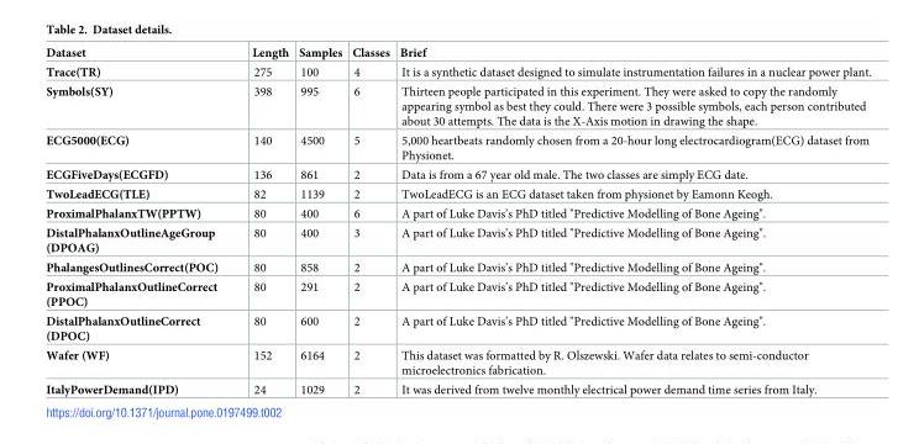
<table><thead><tr><td>Dataset</td><td>Length</td><td>Samples</td><td>Classes</td><td>Brief</td></tr></thead><tbody><tr><td>Trace(TR)</td><td>275</td><td>100</td><td>4</td><td>It is a synthetic dataset designed to simulate instrumentation failures in a nuclear power plant.</td></tr><tr><td>Symbols(SY)</td><td>398</td><td>995</td><td>6</td><td>Thirteen people participated in this experiment. They were asked to copy the randomly appearing symbol as best they could. There were 3 possible symbols, each person contributed about 30 attempts. The data is the X-Axis motion in drawing the shape.</td></tr><tr><td>ECG5000(ECG)</td><td>140</td><td>4500</td><td>5</td><td>5,000 heartbeats randomly chosen from a 20-hour long electrocardiogram(ECG) dataset from Physionet.</td></tr><tr><td>ECGFiveDays(ECGFD)</td><td>136</td><td>861</td><td>2</td><td>Data is from a 67 year old male. The two classes are simply ECG date.</td></tr><tr><td>TwoLeadECG(TLE)</td><td>82</td><td>1139</td><td>2</td><td>TwoLeadECG is an ECG dataset taken from physionet by Eamonn Keogh.</td></tr><tr><td>ProximalPhalanxTW(PPTW)</td><td>80</td><td>400</td><td>6</td><td>A part of Luke Davis’s PhD titled &quot;Predictive Modelling of Bone Ageing&quot;.</td></tr><tr><td>DistalPhalanxOutlineAgeGroup (DPOAG)</td><td>80</td><td>400</td><td>3</td><td>A part of Luke Davis’s PhD titled &quot;Predictive Modelling of Bone Ageing&quot;.</td></tr><tr><td>PhalangesOutlinesCorrect(POC)</td><td>80</td><td>858</td><td>2</td><td>A part of Luke Davis’s PhD titled &quot;Predictive Modelling of Bone Ageing&quot;.</td></tr><tr><td>ProximalPhalanxOutlineCorrect (PPOC)</td><td>80</td><td>291</td><td>2</td><td>A part of Luke Davis’s PhD titled &quot;Predictive Modelling of Bone Ageing&quot;.</td></tr><tr><td>DistalPhalanxOutlineCorrect (DPOC)</td><td>80</td><td>600</td><td>2</td><td>A part of Luke Davis’s PhD titled &quot;Predictive Modelling of Bone Ageing&quot;.</td></tr><tr><td>Wafer (WF)</td><td>152</td><td>6164</td><td>2</td><td>This dataset was formatted by R. Olszewski. Wafer data relates to semi-conductor microelectronics fabrication.</td></tr><tr><td>ItalyPowerDemand(IPD)</td><td>24</td><td>1029</td><td>2</td><td>It was derived from twelve monthly electrical power demand time series from Italy.</td></tr></tbody></table>